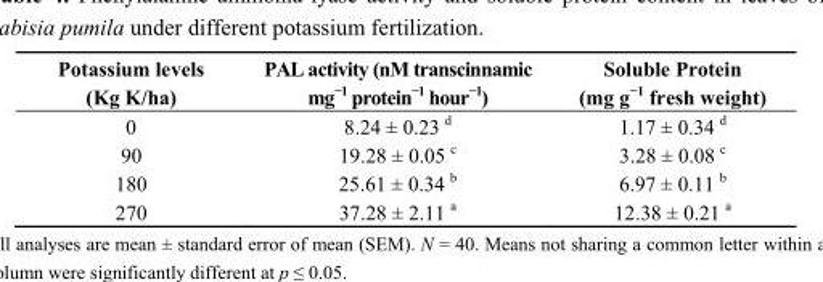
<table><thead><tr><td>Potassium levels (Kg K/ha)</td><td>PAL activity (nM transcinnamic mg<sup>−1</sup> protein<sup>−1</sup> hour<sup>−1</sup>)</td><td>Soluble Protein (mg g<sup>−1</sup> fresh weight)</td></tr></thead><tbody><tr><td>0</td><td>8.24 ± 0.23 <sup>d</sup></td><td>1.17 ± 0.34 <sup>d</sup></td></tr><tr><td>90</td><td>19.28 ± 0.05 <sup>c</sup></td><td>3.28 ± 0.08 <sup>c</sup></td></tr><tr><td>180</td><td>25.61 ± 0.34 <sup>b</sup></td><td>6.97 ± 0.11 <sup>b</sup></td></tr><tr><td>270</td><td>37.28 ± 2.11 <sup>a</sup></td><td>12.38 ± 0.21 <sup>a</sup></td></tr></tbody></table>